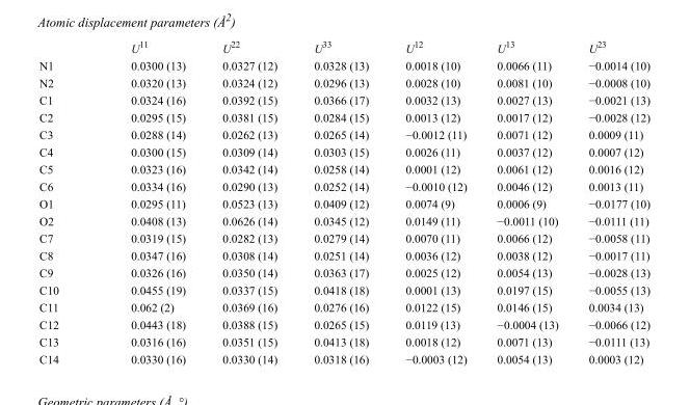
<table><thead><tr><td></td><td>U<sup>11</sup></td><td>U<sup>22</sup></td><td>U<sup>33</sup></td><td>U<sup>12</sup></td><td>U<sup>13</sup></td><td>U<sup>23</sup></td></tr></thead><tbody><tr><td>N1</td><td>0.0300 (13)</td><td>0.0327 (12)</td><td>0.0328 (13)</td><td>0.0018 (10)</td><td>0.0066 (11)</td><td>−0.0014 (10)</td></tr><tr><td>N2</td><td>0.0320 (13)</td><td>0.0324 (12)</td><td>0.0296 (13)</td><td>0.0028 (10)</td><td>0.0081 (10)</td><td>−0.0008 (10)</td></tr><tr><td>C1</td><td>0.0324 (16)</td><td>0.0392 (15)</td><td>0.0366 (17)</td><td>0.0032 (13)</td><td>0.0027 (13)</td><td>−0.0021 (13)</td></tr><tr><td>C2</td><td>0.0295 (15)</td><td>0.0381 (15)</td><td>0.0284 (15)</td><td>0.0013 (12)</td><td>0.0017 (12)</td><td>−0.0028 (12)</td></tr><tr><td>C3</td><td>0.0288 (14)</td><td>0.0262 (13)</td><td>0.0265 (14)</td><td>−0.0012 (11)</td><td>0.0071 (12)</td><td>0.0009 (11)</td></tr><tr><td>C4</td><td>0.0300 (15)</td><td>0.0309 (14)</td><td>0.0303 (15)</td><td>0.0026 (11)</td><td>0.0037 (12)</td><td>0.0007 (12)</td></tr><tr><td>C5</td><td>0.0323 (16)</td><td>0.0342 (14)</td><td>0.0258 (14)</td><td>0.0001 (12)</td><td>0.0061 (12)</td><td>0.0016 (12)</td></tr><tr><td>C6</td><td>0.0334 (16)</td><td>0.0290 (13)</td><td>0.0252 (14)</td><td>−0.0010 (12)</td><td>0.0046 (12)</td><td>0.0013 (11)</td></tr><tr><td>O1</td><td>0.0295 (11)</td><td>0.0523 (13)</td><td>0.0409 (12)</td><td>0.0074 (9)</td><td>0.0006 (9)</td><td>−0.0177 (10)</td></tr><tr><td>O2</td><td>0.0408 (13)</td><td>0.0626 (14)</td><td>0.0345 (12)</td><td>0.0149 (11)</td><td>−0.0011 (10)</td><td>−0.0111 (11)</td></tr><tr><td>C7</td><td>0.0319 (15)</td><td>0.0282 (13)</td><td>0.0279 (14)</td><td>0.0070 (11)</td><td>0.0066 (12)</td><td>−0.0058 (11)</td></tr><tr><td>C8</td><td>0.0347 (16)</td><td>0.0308 (14)</td><td>0.0251 (14)</td><td>0.0036 (12)</td><td>0.0038 (12)</td><td>−0.0017 (11)</td></tr><tr><td>C9</td><td>0.0326 (16)</td><td>0.0350 (14)</td><td>0.0363 (17)</td><td>0.0025 (12)</td><td>0.0054 (13)</td><td>−0.0028 (13)</td></tr><tr><td>C10</td><td>0.0455 (19)</td><td>0.0337 (15)</td><td>0.0418 (18)</td><td>0.0001 (13)</td><td>0.0197 (15)</td><td>−0.0055 (13)</td></tr><tr><td>C11</td><td>0.062 (2)</td><td>0.0369 (16)</td><td>0.0276 (16)</td><td>0.0122 (15)</td><td>0.0146 (15)</td><td>0.0034 (13)</td></tr><tr><td>C12</td><td>0.0443 (18)</td><td>0.0388 (15)</td><td>0.0265 (15)</td><td>0.0119 (13)</td><td>−0.0004 (13)</td><td>−0.0066 (12)</td></tr><tr><td>C13</td><td>0.0316 (16)</td><td>0.0351 (15)</td><td>0.0413 (18)</td><td>0.0018 (12)</td><td>0.0071 (13)</td><td>−0.0111 (13)</td></tr><tr><td>C14</td><td>0.0330 (16)</td><td>0.0330 (14)</td><td>0.0318 (16)</td><td>−0.0003 (12)</td><td>0.0054 (13)</td><td>0.0003 (12)</td></tr></tbody></table>